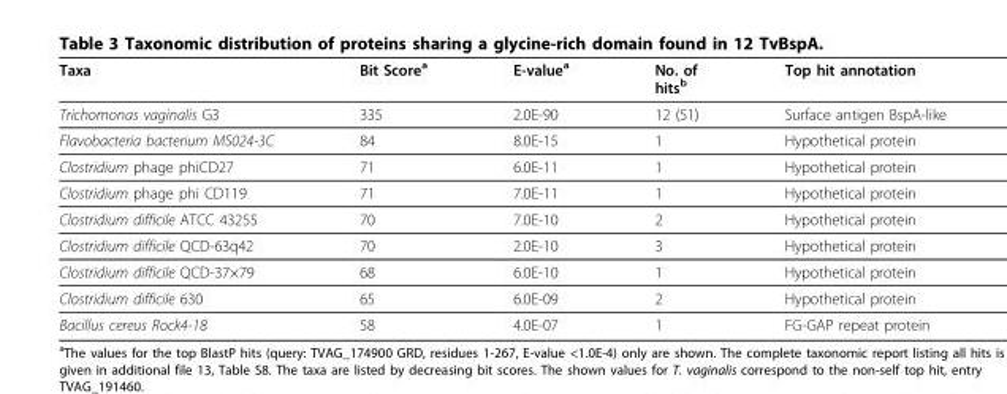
<table><thead><tr><td>Taxa</td><td>Bit Score<sup>a</sup></td><td>E-value<sup>a</sup></td><td>No. of hits<sup>b</sup></td><td>Top hit annotation</td></tr></thead><tbody><tr><td>Trichomonas vaginalis G3</td><td>335</td><td>2.0E-90</td><td>12 (51)</td><td>Surface antigen BspA-like</td></tr><tr><td>Flavobacteria bacterium MS024-3C</td><td>84</td><td>8.0E-15</td><td>1</td><td>Hypothetical protein</td></tr><tr><td>Clostridium phage phiCD27</td><td>71</td><td>6.0E-11</td><td>1</td><td>Hypothetical protein</td></tr><tr><td>Clostridium phage phi CD119</td><td>71</td><td>7.0E-11</td><td>1</td><td>Hypothetical protein</td></tr><tr><td>Clostridium difficile ATCC 43255</td><td>70</td><td>7.0E-10</td><td>2</td><td>Hypothetical protein</td></tr><tr><td>Clostridium difficile QCD-63q42</td><td>70</td><td>2.0E-10</td><td>3</td><td>Hypothetical protein</td></tr><tr><td>Clostridium difficile QCD-37×79</td><td>68</td><td>6.0E-10</td><td>1</td><td>Hypothetical protein</td></tr><tr><td>Clostridium difficile 630</td><td>65</td><td>6.0E-09</td><td>2</td><td>Hypothetical protein</td></tr><tr><td>Bacillus cereus Rock4-18</td><td>58</td><td>4.0E-07</td><td>1</td><td>FG-GAP repeat protein</td></tr></tbody></table>